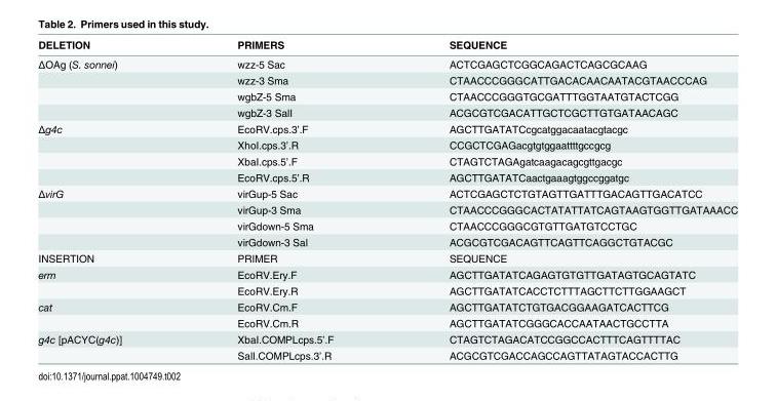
<table><thead><tr><td>DELETION</td><td>PRIMERS</td><td>SEQUENCE</td></tr></thead><tbody><tr><td rowspan="4">ΔOAg (S. sonnei)</td><td>wzz-5 Sac</td><td>ACTCGAGCTCGGCAGACTCAGCGCAAG</td></tr><tr><td>wzz-3 Sma</td><td>CTAACCCGGGCATTGACACAACAATACGTAACCCAG</td></tr><tr><td>wgbZ-5 Sma</td><td>CTAACCCGGGTGCGATTTGGTAATGTACTCGG</td></tr><tr><td>wgbZ-3 SalI</td><td>ACGCGTCGACATTGCTCGCTTGTGATAACAGC</td></tr><tr><td rowspan="4">Δg4c</td><td>EcoRV.cps.3’.F</td><td>AGCTTGATATCcgcatggacaatacgtacgc</td></tr><tr><td>XhoI.cps.3’.R</td><td>CCGCTCGAGacgtgtggaattttgccgcg</td></tr><tr><td>XbaI.cps.5’.F</td><td>CTAGTCTAGAgatcaagacagcgttgacgc</td></tr><tr><td>EcoRV.cps.5’.R</td><td>AGCTTGATATCaactgaaagtggccggatgc</td></tr><tr><td rowspan="4">ΔvirG</td><td>virGup-5 Sac</td><td>ACTCGAGCTCTGTAGTTGATTTGACAGTTGACATCC</td></tr><tr><td>virGup-3 Sma</td><td>CTAACCCGGGCACTATATTATCAGTAAGTGGTTGATAAACC</td></tr><tr><td>virGdown-5 Sma</td><td>CTAACCCGGGCGTGTTGATGTCCTGC</td></tr><tr><td>virGdown-3 Sal</td><td>ACGCGTCGACAGTTCAGTTCAGGCTGTACGC</td></tr><tr><td>INSERTION</td><td>PRIMER</td><td>SEQUENCE</td></tr><tr><td rowspan="2">erm</td><td>EcoRV.Ery.F</td><td>AGCTTGATATCAGAGTGTGTTGATAGTGCAGTATC</td></tr><tr><td>EcoRV.Ery.R</td><td>AGCTTGATATCACCTCTTTAGCTTCTTGGAAGCT</td></tr><tr><td rowspan="2">cat</td><td>EcoRV.Cm.F</td><td>AGCTTGATATCTGTGACGGAAGATCACTTCG</td></tr><tr><td>EcoRV.Cm.R</td><td>AGCTTGATATCGGGCACCAATAACTGCCTTA</td></tr><tr><td rowspan="2">g4c [pACYC(g4c)]</td><td>XbaI.COMPLcps.5’.F</td><td>CTAGTCTAGACATCCGGCCACTTTCAGTTTTAC</td></tr><tr><td>SalI.COMPLcps.3’.R</td><td>ACGCGTCGACCAGCCAGTTATAGTACCACTTG</td></tr></tbody></table>